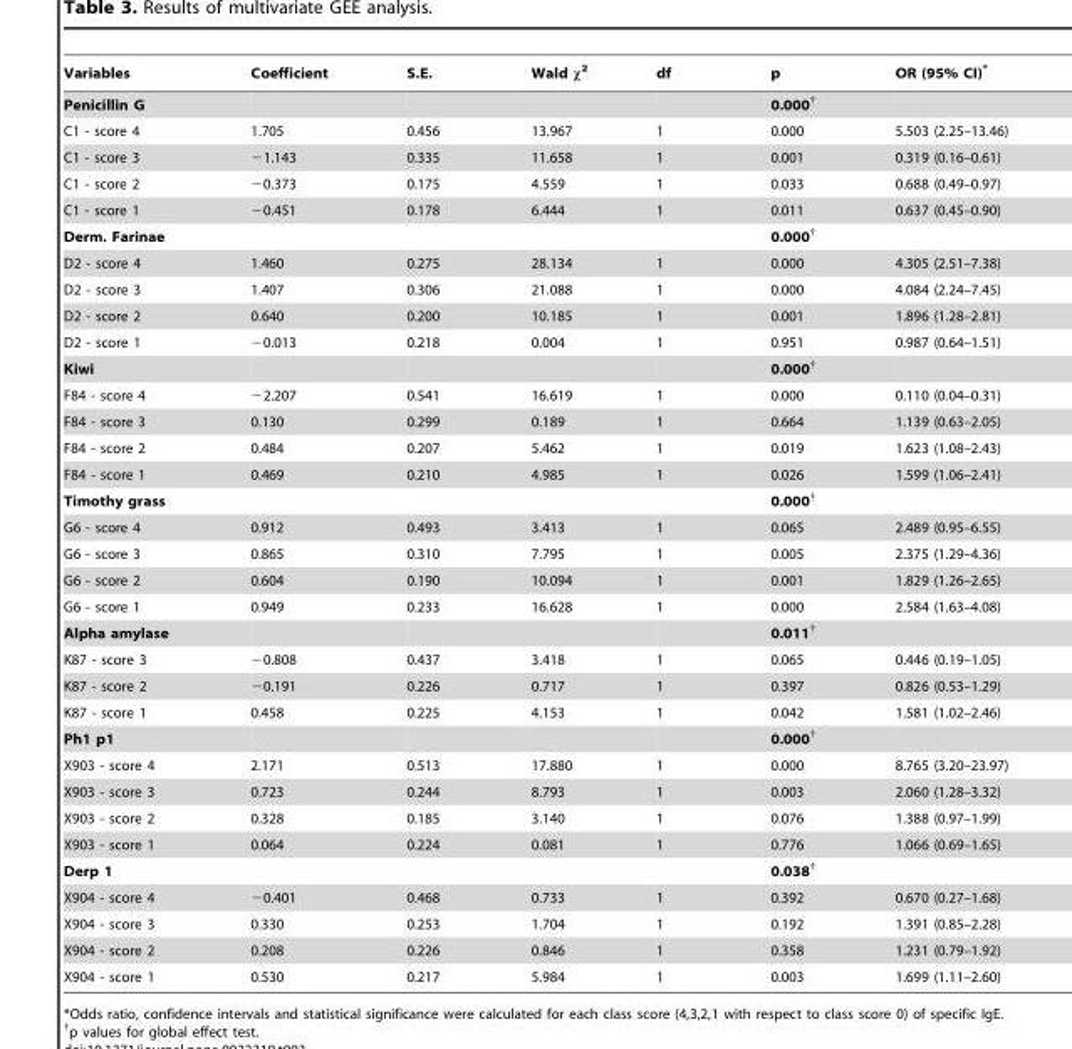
<table><thead><tr><td>Variables</td><td>Coefficient</td><td>S.E.</td><td>Wald χ<sup>2</sup></td><td>df</td><td>p</td><td>OR (95% CI)*</td></tr></thead><tbody><tr><td>Penicillin G</td><td></td><td></td><td></td><td></td><td>0.000†</td><td></td></tr><tr><td>C1 - score 4</td><td>1.705</td><td>0.456</td><td>13.967</td><td>1</td><td>0.000</td><td>5.503 (2.25–13.46)</td></tr><tr><td>C1 - score 3</td><td>−1.143</td><td>0.335</td><td>11.658</td><td>1</td><td>0.001</td><td>0.319 (0.16–0.61)</td></tr><tr><td>C1 - score 2</td><td>−0.373</td><td>0.175</td><td>4.559</td><td>1</td><td>0.033</td><td>0.688 (0.49–0.97)</td></tr><tr><td>C1 - score 1</td><td>−0.451</td><td>0.178</td><td>6.444</td><td>1</td><td>0.011</td><td>0.637 (0.45–0.90)</td></tr><tr><td>Derm. Farinae</td><td></td><td></td><td></td><td></td><td>0.000†</td><td></td></tr><tr><td>D2 - score 4</td><td>1.460</td><td>0.275</td><td>28.134</td><td>1</td><td>0.000</td><td>4.305 (2.51–7.38)</td></tr><tr><td>D2 - score 3</td><td>1.407</td><td>0.306</td><td>21.088</td><td>1</td><td>0.000</td><td>4.084 (2.24–7.45)</td></tr><tr><td>D2 - score 2</td><td>0.640</td><td>0.200</td><td>10.185</td><td>1</td><td>0.001</td><td>1.896 (1.28–2.81)</td></tr><tr><td>D2 - score 1</td><td>−0.013</td><td>0.218</td><td>0.004</td><td>1</td><td>0.951</td><td>0.987 (0.64–1.51)</td></tr><tr><td>Kiwi</td><td></td><td></td><td></td><td></td><td>0.000†</td><td></td></tr><tr><td>F84 - score 4</td><td>−2.207</td><td>0.541</td><td>16.619</td><td>1</td><td>0.000</td><td>0.110 (0.04–0.31)</td></tr><tr><td>F84 - score 3</td><td>0.130</td><td>0.299</td><td>0.189</td><td>1</td><td>0.664</td><td>1.139 (0.63–2.05)</td></tr><tr><td>F84 - score 2</td><td>0.484</td><td>0.207</td><td>5.462</td><td>1</td><td>0.019</td><td>1.623 (1.08–2.43)</td></tr><tr><td>F84 - score 1</td><td>0.469</td><td>0.210</td><td>4.985</td><td>1</td><td>0.026</td><td>1.599 (1.06–2.41)</td></tr><tr><td>Timothy grass</td><td></td><td></td><td></td><td></td><td>0.000†</td><td></td></tr><tr><td>G6 - score 4</td><td>0.912</td><td>0.493</td><td>3.413</td><td>1</td><td>0.065</td><td>2.489 (0.95–6.55)</td></tr><tr><td>G6 - score 3</td><td>0.865</td><td>0.310</td><td>7.795</td><td>1</td><td>0.005</td><td>2.375 (1.29–4.36)</td></tr><tr><td>G6 - score 2</td><td>0.604</td><td>0.190</td><td>10.094</td><td>1</td><td>0.001</td><td>1.829 (1.26–2.65)</td></tr><tr><td>G6 - score 1</td><td>0.949</td><td>0.233</td><td>16.628</td><td>1</td><td>0.000</td><td>2.584 (1.63–4.08)</td></tr><tr><td>Alpha amylase</td><td></td><td></td><td></td><td></td><td>0.011†</td><td></td></tr><tr><td>K87 - score 3</td><td>−0.808</td><td>0.437</td><td>3.418</td><td>1</td><td>0.065</td><td>0.446 (0.19–1.05)</td></tr><tr><td>K87 - score 2</td><td>−0.191</td><td>0.226</td><td>0.717</td><td>1</td><td>0.397</td><td>0.826 (0.53–1.29)</td></tr><tr><td>K87 - score 1</td><td>0.458</td><td>0.225</td><td>4.153</td><td>1</td><td>0.042</td><td>1.581 (1.02–2.46)</td></tr><tr><td>Ph1 p1</td><td></td><td></td><td></td><td></td><td>0.000†</td><td></td></tr><tr><td>X903 - score 4</td><td>2.171</td><td>0.513</td><td>17.880</td><td>1</td><td>0.000</td><td>8.765 (3.20–23.97)</td></tr><tr><td>X903 - score 3</td><td>0.723</td><td>0.244</td><td>8.793</td><td>1</td><td>0.003</td><td>2.060 (1.28–3.32)</td></tr><tr><td>X903 - score 2</td><td>0.328</td><td>0.185</td><td>3.140</td><td>1</td><td>0.076</td><td>1.388 (0.97–1.99)</td></tr><tr><td>X903 - score 1</td><td>0.064</td><td>0.224</td><td>0.081</td><td>1</td><td>0.776</td><td>1.066 (0.69–1.65)</td></tr><tr><td>Derp 1</td><td></td><td></td><td></td><td></td><td>0.038†</td><td></td></tr><tr><td>X904 - score 4</td><td>−0.401</td><td>0.468</td><td>0.733</td><td>1</td><td>0.392</td><td>0.670 (0.27–1.68)</td></tr><tr><td>X904 - score 3</td><td>0.330</td><td>0.253</td><td>1.704</td><td>1</td><td>0.192</td><td>1.391 (0.85–2.28)</td></tr><tr><td>X904 - score 2</td><td>0.208</td><td>0.226</td><td>0.846</td><td>1</td><td>0.358</td><td>1.231 (0.79–1.92)</td></tr><tr><td>X904 - score 1</td><td>0.530</td><td>0.217</td><td>5.984</td><td>1</td><td>0.003</td><td>1.699 (1.11–2.60)</td></tr></tbody></table>